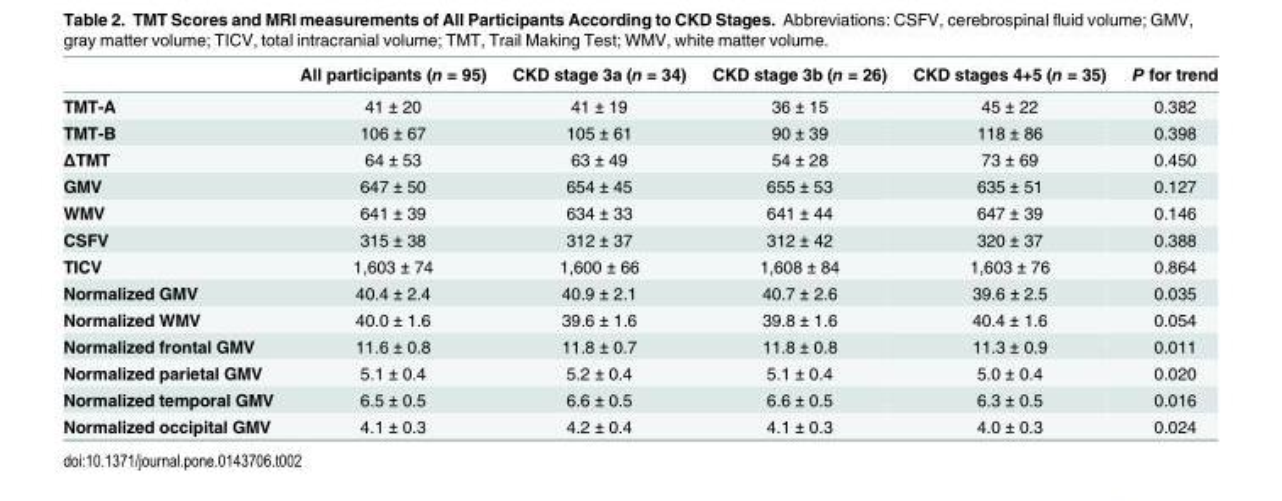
<table><thead><tr><td></td><td>All participants (n = 95)</td><td>CKD stage 3a (n = 34)</td><td>CKD stage 3b (n = 26)</td><td>CKD stages 4+5 (n = 35)</td><td>P for trend</td></tr></thead><tbody><tr><td>TMT-A</td><td>41 ± 20</td><td>41 ± 19</td><td>36 ± 15</td><td>45 ± 22</td><td>0.382</td></tr><tr><td>TMT-B</td><td>106 ± 67</td><td>105 ± 61</td><td>90 ± 39</td><td>118 ± 86</td><td>0.398</td></tr><tr><td>ΔTMT</td><td>64 ± 53</td><td>63 ± 49</td><td>54 ± 28</td><td>73 ± 69</td><td>0.450</td></tr><tr><td>GMV</td><td>647 ± 50</td><td>654 ± 45</td><td>655 ± 53</td><td>635 ± 51</td><td>0.127</td></tr><tr><td>WMV</td><td>641 ± 39</td><td>634 ± 33</td><td>641 ± 44</td><td>647 ± 39</td><td>0.146</td></tr><tr><td>CSFV</td><td>315 ± 38</td><td>312 ± 37</td><td>312 ± 42</td><td>320 ± 37</td><td>0.388</td></tr><tr><td>TICV</td><td>1,603 ± 74</td><td>1,600 ± 66</td><td>1,608 ± 84</td><td>1,603 ± 76</td><td>0.864</td></tr><tr><td>Normalized GMV</td><td>40.4 ± 2.4</td><td>40.9 ± 2.1</td><td>40.7 ± 2.6</td><td>39.6 ± 2.5</td><td>0.035</td></tr><tr><td>Normalized WMV</td><td>40.0 ± 1.6</td><td>39.6 ± 1.6</td><td>39.8 ± 1.6</td><td>40.4 ± 1.6</td><td>0.054</td></tr><tr><td>Normalized frontal GMV</td><td>11.6 ± 0.8</td><td>11.8 ± 0.7</td><td>11.8 ± 0.8</td><td>11.3 ± 0.9</td><td>0.011</td></tr><tr><td>Normalized parietal GMV</td><td>5.1 ± 0.4</td><td>5.2 ± 0.4</td><td>5.1 ± 0.4</td><td>5.0 ± 0.4</td><td>0.020</td></tr><tr><td>Normalized temporal GMV</td><td>6.5 ± 0.5</td><td>6.6 ± 0.5</td><td>6.6 ± 0.5</td><td>6.3 ± 0.5</td><td>0.016</td></tr><tr><td>Normalized occipital GMV</td><td>4.1 ± 0.3</td><td>4.2 ± 0.4</td><td>4.1 ± 0.3</td><td>4.0 ± 0.3</td><td>0.024</td></tr></tbody></table>